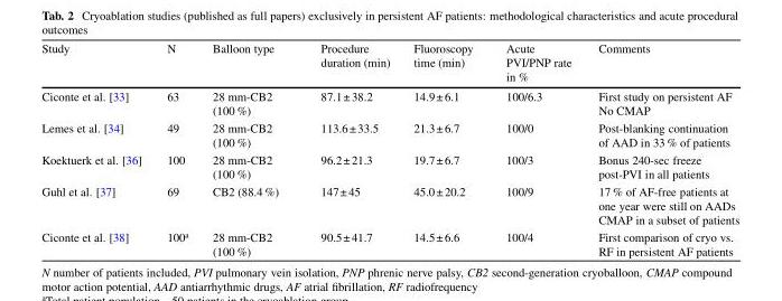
<table><thead><tr><td>Study</td><td>N</td><td>Balloon type</td><td>Procedure duration (min)</td><td>Fluoroscopy time (min)</td><td>Acute PVI/PNP rate in %</td><td>Comments</td></tr></thead><tbody><tr><td>Ciconte et al. [33]</td><td>63</td><td>28 mm-CB2 (100 %)</td><td>87.1±38.2</td><td>14.9±6.1</td><td>100/6.3</td><td>First study on persistent AF No CMAP</td></tr><tr><td>Lemes et al. [34]</td><td>49</td><td>28 mm-CB2 (100 %)</td><td>113.6±33.5</td><td>21.3±6.7</td><td>100/0</td><td>Post-blanking continuation of AAD in 33 % of patients</td></tr><tr><td>Koektuerk et al. [36]</td><td>100</td><td>28 mm-CB2 (100 %)</td><td>96.2±21.3</td><td>19.7±6.7</td><td>100/3</td><td>Bonus 240-sec freeze post-PVI in all patients</td></tr><tr><td>Guhl et al. [37]</td><td>69</td><td>CB2 (88.4 %)</td><td>147±45</td><td>45.0±20.2</td><td>100/9</td><td>17 % of AF-free patients at one year were still on AADs CMAP in a subset of patients</td></tr><tr><td>Ciconte et al. [38]</td><td>100<sup>a</sup></td><td>28 mm-CB2 (100 %)</td><td>90.5±41.7</td><td>14.5±6.6</td><td>100/4</td><td>First comparison of cryo vs. RF in persistent AF patients</td></tr></tbody></table>